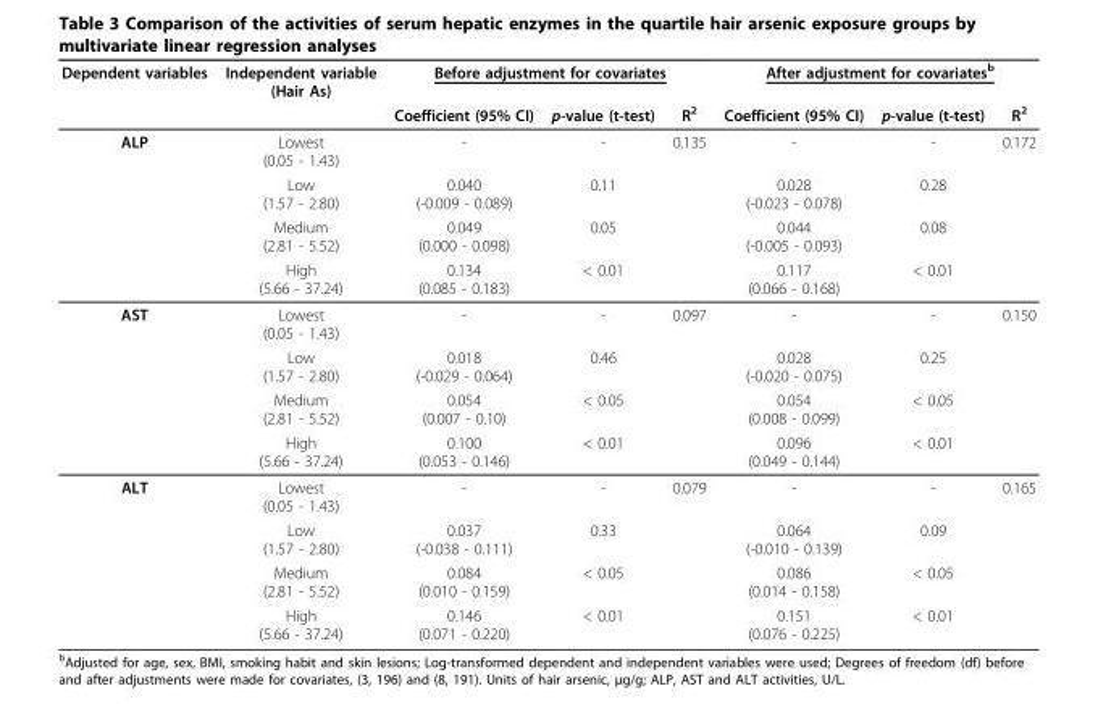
<table><thead><tr><td rowspan="2">Dependent variables</td><td rowspan="2">Independent variable (Hair As)</td><td colspan="3">Before adjustment for covariates</td><td colspan="3">After adjustment for covariates<sup>b</sup></td></tr><tr><td>Coefficient (95% CI)</td><td>p-value (t-test)</td><td>R<sup>2</sup></td><td>Coefficient (95% CI)</td><td>p-value (t-test)</td><td>R<sup>2</sup></td></tr></thead><tbody><tr><td rowspan="4">ALP</td><td>Lowest (0.05 - 1.43)</td><td>-</td><td>-</td><td>0.135</td><td>-</td><td>-</td><td>0.172</td></tr><tr><td>Low (1.57 - 2.80)</td><td>0.040 (-0.009 - 0.089)</td><td>0.11</td><td></td><td>0.028 (-0.023 - 0.078)</td><td>0.28</td><td></td></tr><tr><td>Medium (2.81 - 5.52)</td><td>0.049 (0.000 - 0.098)</td><td>0.05</td><td></td><td>0.044 (-0.005 - 0.093)</td><td>0.08</td><td></td></tr><tr><td>High (5.66 - 37.24)</td><td>0.134 (0.085 - 0.183)</td><td>&lt; 0.01</td><td></td><td>0.117 (0.066 - 0.168)</td><td>&lt; 0.01</td><td></td></tr><tr><td rowspan="4">AST</td><td>Lowest (0.05 - 1.43)</td><td>-</td><td>-</td><td>0.097</td><td>-</td><td>-</td><td>0.150</td></tr><tr><td>Low (1.57 - 2.80)</td><td>0.018 (-0.029 - 0.064)</td><td>0.46</td><td></td><td>0.028 (-0.020 - 0.075)</td><td>0.25</td><td></td></tr><tr><td>Medium (2.81 - 5.52)</td><td>0.054 (0.007 - 0.10)</td><td>&lt; 0.05</td><td></td><td>0.054 (0.008 - 0.099)</td><td>&lt; 0.05</td><td></td></tr><tr><td>High (5.66 - 37.24)</td><td>0.100 (0.053 - 0.146)</td><td>&lt; 0.01</td><td></td><td>0.096 (0.049 - 0.144)</td><td>&lt; 0.01</td><td></td></tr><tr><td rowspan="4">ALT</td><td>Lowest (0.05 - 1.43)</td><td>-</td><td>-</td><td>0.079</td><td>-</td><td>-</td><td>0.165</td></tr><tr><td>Low (1.57 - 2.80)</td><td>0.037 (-0.038 - 0.111)</td><td>0.33</td><td></td><td>0.064 (-0.010 - 0.139)</td><td>0.09</td><td></td></tr><tr><td>Medium (2.81 - 5.52)</td><td>0.084 (0.010 - 0.159)</td><td>&lt; 0.05</td><td></td><td>0.086 (0.014 - 0.158)</td><td>&lt; 0.05</td><td></td></tr><tr><td>High (5.66 - 37.24)</td><td>0.146 (0.071 - 0.220)</td><td>&lt; 0.01</td><td></td><td>0.151 (0.076 - 0.225)</td><td>&lt; 0.01</td><td></td></tr></tbody></table>